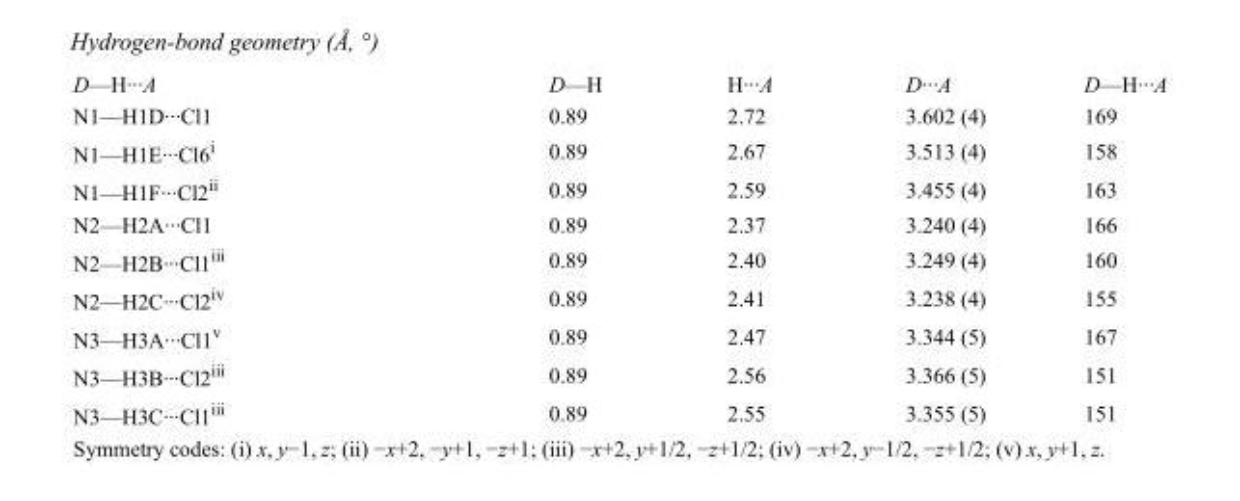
<table><tbody><tr><td>D—H···A</td><td>D—H</td><td>H···A</td><td>D···A</td><td>D—H···A</td></tr><tr><td>N1—H1D···Cl1</td><td>0.89</td><td>2.72</td><td>3.602 (4)</td><td>169</td></tr><tr><td>N1—H1E···Cl6<sup>i</sup></td><td>0.89</td><td>2.67</td><td>3.513 (4)</td><td>158</td></tr><tr><td>N1—H1F···Cl2<sup>ii</sup></td><td>0.89</td><td>2.59</td><td>3.455 (4)</td><td>163</td></tr><tr><td>N2—H2A···Cl1</td><td>0.89</td><td>2.37</td><td>3.240 (4)</td><td>166</td></tr><tr><td>N2—H2B···Cl1<sup>iii</sup></td><td>0.89</td><td>2.40</td><td>3.249 (4)</td><td>160</td></tr><tr><td>N2—H2C···Cl2<sup>iv</sup></td><td>0.89</td><td>2.41</td><td>3.238 (4)</td><td>155</td></tr><tr><td>N3—H3A···Cl1<sup>v</sup></td><td>0.89</td><td>2.47</td><td>3.344 (5)</td><td>167</td></tr><tr><td>N3—H3B···Cl2<sup>iii</sup></td><td>0.89</td><td>2.56</td><td>3.366 (5)</td><td>151</td></tr><tr><td>N3—H3C···Cl1<sup>iii</sup></td><td>0.89</td><td>2.55</td><td>3.355 (5)</td><td>151</td></tr></tbody></table>